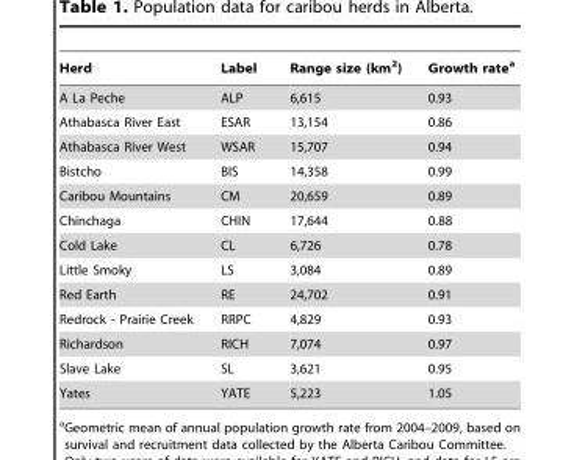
<table><thead><tr><td>Herd</td><td>Label</td><td>Range size (km<sup>2</sup>)</td><td>Growth rate<sup>a</sup></td></tr></thead><tbody><tr><td>A La Peche</td><td>ALP</td><td>6,615</td><td>0.93</td></tr><tr><td>Athabasca River East</td><td>ESAR</td><td>13,154</td><td>0.86</td></tr><tr><td>Athabasca River West</td><td>WSAR</td><td>15,707</td><td>0.94</td></tr><tr><td>Bistcho</td><td>BIS</td><td>14,358</td><td>0.99</td></tr><tr><td>Caribou Mountains</td><td>CM</td><td>20,659</td><td>0.89</td></tr><tr><td>Chinchaga</td><td>CHIN</td><td>17,644</td><td>0.88</td></tr><tr><td>Cold Lake</td><td>CL</td><td>6,726</td><td>0.78</td></tr><tr><td>Little Smoky</td><td>LS</td><td>3,084</td><td>0.89</td></tr><tr><td>Red Earth</td><td>RE</td><td>24,702</td><td>0.91</td></tr><tr><td>Redrock - Prairie Creek</td><td>RRPC</td><td>4,829</td><td>0.93</td></tr><tr><td>Richardson</td><td>RICH</td><td>7,074</td><td>0.97</td></tr><tr><td>Slave Lake</td><td>SL</td><td>3,621</td><td>0.95</td></tr><tr><td>Yates</td><td>YATE</td><td>5,223</td><td>1.05</td></tr></tbody></table>